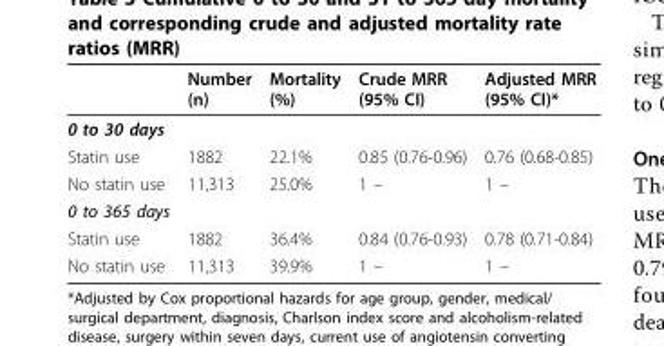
<table><thead><tr><td></td><td>Number (n)</td><td>Mortality (%)</td><td>Crude MRR (95% CI)</td><td>Adjusted MRR (95% CI)*</td></tr></thead><tbody><tr><td colspan="5">0 to 30 days</td></tr><tr><td>Statin use</td><td>1882</td><td>22.1%</td><td>0.85 (0.76-0.96)</td><td>0.76 (0.68-0.85)</td></tr><tr><td>No statin use</td><td>11,313</td><td>25.0%</td><td>1 –</td><td>1 –</td></tr><tr><td colspan="5">0 to 365 days</td></tr><tr><td>Statin use</td><td>1882</td><td>36.4%</td><td>0.84 (0.76-0.93)</td><td>0.78 (0.71-0.84)</td></tr><tr><td>No statin use</td><td>11,313</td><td>39.9%</td><td>1 –</td><td>1 –</td></tr></tbody></table>